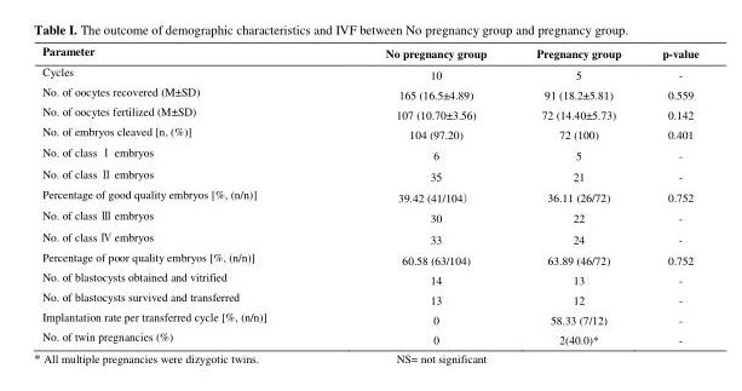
<table><thead><tr><td>Parameter</td><td>No pregnancy group</td><td>Pregnancy group</td><td>p-value</td></tr></thead><tbody><tr><td>Cycles</td><td>10</td><td>5</td><td>-</td></tr><tr><td>No. of oocytes recovered (M±SD)</td><td>165 (16.5±4.89)</td><td>91 (18.2±5.81)</td><td>0.559</td></tr><tr><td>No. of oocytes fertilized (M±SD)</td><td>107 (10.70±3.56)</td><td>72 (14.40±5.73)</td><td>0.142</td></tr><tr><td>No. of embryos cleaved [n, (%)]</td><td>104 (97.20)</td><td>72 (100)</td><td>0.401</td></tr><tr><td>No. of class Ⅰ embryos</td><td>6</td><td>5</td><td>-</td></tr><tr><td>No. of class Ⅱ embryos</td><td>35</td><td>21</td><td>-</td></tr><tr><td>Percentage of good quality embryos [%, (n/n)]</td><td>39.42 (41/104）</td><td>36.11 (26/72)</td><td>0.752</td></tr><tr><td>No. of class Ⅲ embryos</td><td>30</td><td>22</td><td>-</td></tr><tr><td>No. of class Ⅳ embryos</td><td>33</td><td>24</td><td>-</td></tr><tr><td>Percentage of poor quality embryos [%, (n/n)]</td><td>60.58 (63/104)</td><td>63.89 (46/72)</td><td>0.752</td></tr><tr><td>No. of blastocysts obtained and vitrified</td><td>14</td><td>13</td><td>-</td></tr><tr><td>No. of blastocysts survived and transferred</td><td>13</td><td>12</td><td>-</td></tr><tr><td>Implantation rate per transferred cycle [%, (n/n)]</td><td>0</td><td>58.33 (7/12)</td><td>-</td></tr><tr><td>No. of twin pregnancies (%)</td><td>0</td><td>2(40.0)*</td><td>-</td></tr></tbody></table>